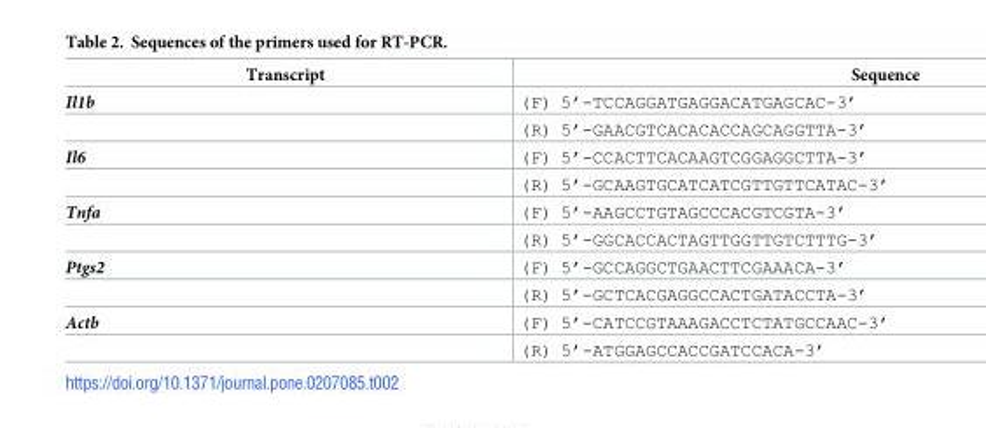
<table><thead><tr><td>Transcript</td><td>Sequence</td></tr></thead><tbody><tr><td rowspan="2">Il1b</td><td>(F) 5’-TCCAGGATGAGGACATGAGCAC-3’</td></tr><tr><td>(R) 5’-GAACGTCACACACCAGCAGGTTA-3’</td></tr><tr><td rowspan="2">Il6</td><td>(F) 5’-CCACTTCACAAGTCGGAGGCTTA-3’</td></tr><tr><td>(R) 5’-GCAAGTGCATCATCGTTGTTCATAC-3’</td></tr><tr><td rowspan="2">Tnfa</td><td>(F) 5’-AAGCCTGTAGCCCACGTCGTA-3’</td></tr><tr><td>(R) 5’-GGCACCACTAGTTGGTTGTCTTTG-3’</td></tr><tr><td rowspan="2">Ptgs2</td><td>(F) 5’-GCCAGGCTGAACTTCGAAACA-3’</td></tr><tr><td>(R) 5’-GCTCACGAGGCCACTGATACCTA-3’</td></tr><tr><td rowspan="2">Actb</td><td>(F) 5’-CATCCGTAAAGACCTCTATGCCAAC-3’</td></tr><tr><td>(R) 5’-ATGGAGCCACCGATCCACA-3’</td></tr></tbody></table>